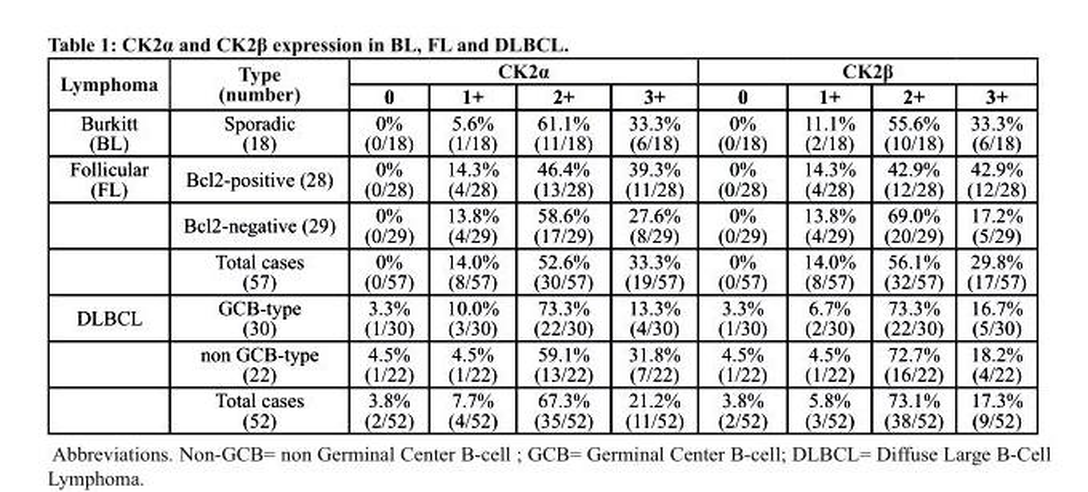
<table><thead><tr><td rowspan="2">Lymphoma</td><td rowspan="2">Type (number)</td><td colspan="4">CK2α</td><td colspan="4">CK2β</td></tr><tr><td>0</td><td>1+</td><td>2+</td><td>3+</td><td>0</td><td>1+</td><td>2+</td><td>3+</td></tr></thead><tbody><tr><td>Burkitt (BL)</td><td>Sporadic (18)</td><td>0% (0/18)</td><td>5.6% (1/18)</td><td>61.1% (11/18)</td><td>33.3% (6/18)</td><td>0% (0/18)</td><td>11.1% (2/18)</td><td>55.6% (10/18)</td><td>33.3% (6/18)</td></tr><tr><td rowspan="3">Follicular (FL)</td><td>Bcl2-positive (28)</td><td>0% (0/28)</td><td>14.3% (4/28)</td><td>46.4% (13/28)</td><td>39.3% (11/28)</td><td>0% (0/28)</td><td>14.3% (4/28)</td><td>42.9% (12/28)</td><td>42.9% (12/28)</td></tr><tr><td>Bcl2-negative (29)</td><td>0% (0/29)</td><td>13.8% (4/29)</td><td>58.6% (17/29)</td><td>27.6% (8/29)</td><td>0% (0/29)</td><td>13.8% (4/29)</td><td>69.0% (20/29)</td><td>17.2% (5/29)</td></tr><tr><td>Total cases (57)</td><td>0% (0/57)</td><td>14.0% (8/57)</td><td>52.6% (30/57)</td><td>33.3% (19/57)</td><td>0% (0/57)</td><td>14.0% (8/57)</td><td>56.1% (32/57)</td><td>29.8% (17/57)</td></tr><tr><td rowspan="3">DLBCL</td><td>GCB-type (30)</td><td>3.3% (1/30)</td><td>10.0% (3/30)</td><td>73.3% (22/30)</td><td>13.3% (4/30)</td><td>3.3% (1/30)</td><td>6.7% (2/30)</td><td>73.3% (22/30)</td><td>16.7% (5/30)</td></tr><tr><td>non GCB-type (22)</td><td>4.5% (1/22)</td><td>4.5% (1/22)</td><td>59.1% (13/22)</td><td>31.8% (7/22)</td><td>4.5% (1/22)</td><td>4.5% (1/22)</td><td>72.7% (16/22)</td><td>18.2% (4/22)</td></tr><tr><td>Total cases (52)</td><td>3.8% (2/52)</td><td>7.7% (4/52)</td><td>67.3% (35/52)</td><td>21.2% (11/52)</td><td>3.8% (2/52)</td><td>5.8% (3/52)</td><td>73.1% (38/52)</td><td>17.3% (9/52)</td></tr></tbody></table>